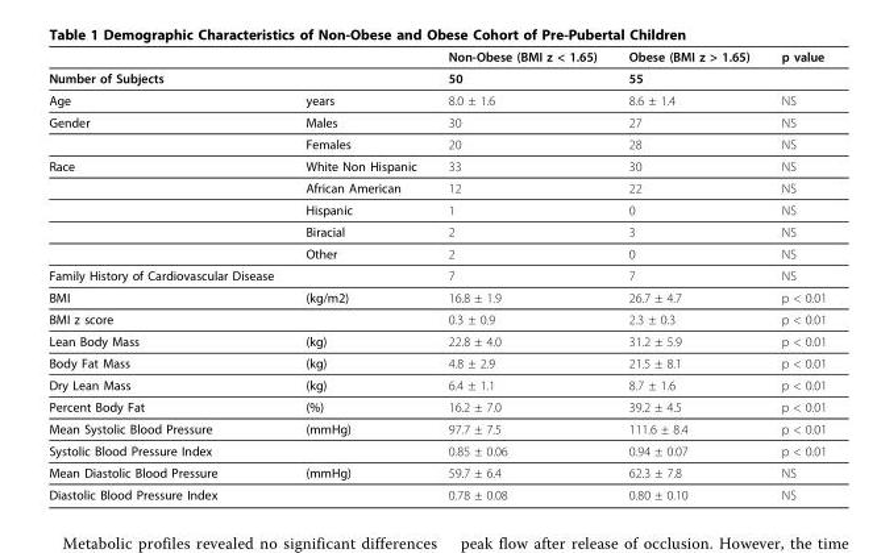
<table><thead><tr><td></td><td></td><td>Non-Obese (BMI z &lt; 1.65)</td><td>Obese (BMI z &gt; 1.65)</td><td>p value</td></tr></thead><tbody><tr><td>Number of Subjects</td><td></td><td>50</td><td>55</td><td></td></tr><tr><td>Age</td><td>years</td><td>8.0 ± 1.6</td><td>8.6 ± 1.4</td><td>NS</td></tr><tr><td rowspan="2">Gender</td><td>Males</td><td>30</td><td>27</td><td>NS</td></tr><tr><td>Females</td><td>20</td><td>28</td><td>NS</td></tr><tr><td rowspan="5">Race</td><td>White Non Hispanic</td><td>33</td><td>30</td><td>NS</td></tr><tr><td>African American</td><td>12</td><td>22</td><td>NS</td></tr><tr><td>Hispanic</td><td>1</td><td>0</td><td>NS</td></tr><tr><td>Biracial</td><td>2</td><td>3</td><td>NS</td></tr><tr><td>Other</td><td>2</td><td>0</td><td>NS</td></tr><tr><td>Family History of Cardiovascular Disease</td><td></td><td>7</td><td>7</td><td>NS</td></tr><tr><td>BMI</td><td>(kg/m2)</td><td>16.8 ± 1.9</td><td>26.7 ± 4.7</td><td>p &lt; 0.01</td></tr><tr><td>BMI z score</td><td></td><td>0.3 ± 0.9</td><td>2.3 ± 0.3</td><td>p &lt; 0.01</td></tr><tr><td>Lean Body Mass</td><td>(kg)</td><td>22.8 ± 4.0</td><td>31.2 ± 5.9</td><td>p &lt; 0.01</td></tr><tr><td>Body Fat Mass</td><td>(kg)</td><td>4.8 ± 2.9</td><td>21.5 ± 8.1</td><td>p &lt; 0.01</td></tr><tr><td>Dry Lean Mass</td><td>(kg)</td><td>6.4 ± 1.1</td><td>8.7 ± 1.6</td><td>p &lt; 0.01</td></tr><tr><td>Percent Body Fat</td><td>(%)</td><td>16.2 ± 7.0</td><td>39.2 ± 4.5</td><td>p &lt; 0.01</td></tr><tr><td>Mean Systolic Blood Pressure</td><td>(mmHg)</td><td>97.7 ± 7.5</td><td>111.6 ± 8.4</td><td>p &lt; 0.01</td></tr><tr><td>Systolic Blood Pressure Index</td><td></td><td>0.85 ± 0.06</td><td>0.94 ± 0.07</td><td>p &lt; 0.01</td></tr><tr><td>Mean Diastolic Blood Pressure</td><td>(mmHg)</td><td>59.7 ± 6.4</td><td>62.3 ± 7.8</td><td>NS</td></tr><tr><td>Diastolic Blood Pressure Index</td><td></td><td>0.78 ± 0.08</td><td>0.80 ± 0.10</td><td>NS</td></tr></tbody></table>